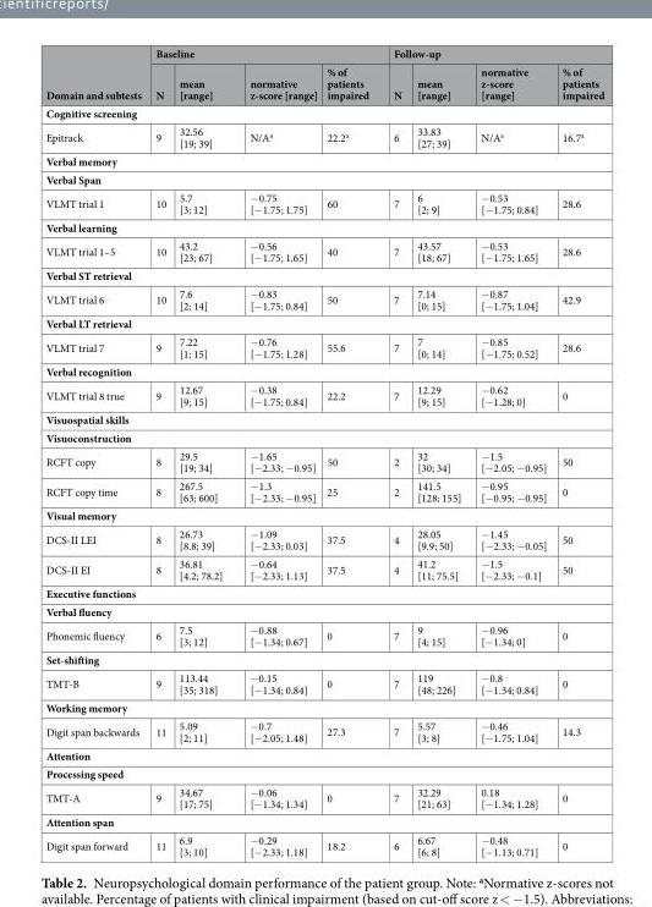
<table><thead><tr><td rowspan="2">Domain and subtests</td><td colspan="4">Baseline</td><td colspan="4">Follow-up</td></tr><tr><td>N</td><td>mean [range]</td><td>normative z-score [range]</td><td>% of patients impaired</td><td>N</td><td>mean [range]</td><td>normative z-score [range]</td><td>% of patients impaired</td></tr></thead><tbody><tr><td colspan="9">Cognitive screening</td></tr><tr><td>Epitrack</td><td>9</td><td>32.56 [19; 39]</td><td>N/A<sup>a</sup></td><td>22.2<sup>a</sup></td><td>6</td><td>33.83 [27; 39]</td><td>N/A<sup>a</sup></td><td>16.7<sup>a</sup></td></tr><tr><td colspan="9">Verbal memory</td></tr><tr><td colspan="9">Verbal Span</td></tr><tr><td>VLMT trial 1</td><td>10</td><td>5.7 [3; 12]</td><td>−0.75 [−1.75; 1.75]</td><td>60</td><td>7</td><td>6 [2; 9]</td><td>−0.53 [−1.75; 0.84]</td><td>28.6</td></tr><tr><td colspan="9">Verbal learning</td></tr><tr><td>VLMT trial 1–5</td><td>10</td><td>43.2 [23; 67]</td><td>−0.56 [−1.75; 1.65]</td><td>40</td><td>7</td><td>43.57 [18; 67]</td><td>−0.53 [−1.75; 1.65]</td><td>28.6</td></tr><tr><td colspan="9">Verbal ST retrieval</td></tr><tr><td>VLMT trial 6</td><td>10</td><td>7.6 [2; 14]</td><td>−0.83 [−1.75; 0.84]</td><td>50</td><td>7</td><td>7.14 [0; 15]</td><td>−0.87 [−1.75; 1.04]</td><td>42.9</td></tr><tr><td colspan="9">Verbal LT retrieval</td></tr><tr><td>VLMT trial 7</td><td>9</td><td>7.22 [1; 15]</td><td>−0.76 [−1.75; 1.28]</td><td>55.6</td><td>7</td><td>7 [0; 14]</td><td>−0.85 [−1.75; 0.52]</td><td>28.6</td></tr><tr><td colspan="9">Verbal recognition</td></tr><tr><td>VLMT trial 8 true</td><td>9</td><td>12.67 [9; 15]</td><td>−0.38 [−1.75; 0.84]</td><td>22.2</td><td>7</td><td>12.29 [9; 15]</td><td>−0.62 [−1.28; 0]</td><td>0</td></tr><tr><td colspan="9">Visuospatial skills</td></tr><tr><td colspan="9">Visuoconstruction</td></tr><tr><td>RCFT copy</td><td>8</td><td>29.5 [19; 34]</td><td>−1.65 [−2.33; −0.95]</td><td>50</td><td>2</td><td>32 [30; 34]</td><td>−1.5 [−2.05; −0.95]</td><td>50</td></tr><tr><td>RCFT copy time</td><td>8</td><td>267.5 [63; 600]</td><td>−1.3 [−2.33; −0.95]</td><td>25</td><td>2</td><td>141.5 [128; 155]</td><td>−0.95 [−0.95; −0.95]</td><td>0</td></tr><tr><td colspan="9">Visual memory</td></tr><tr><td>DCS-II LEI</td><td>8</td><td>26.73 [8.8; 39]</td><td>−1.09 [−2.33; 0.03]</td><td>37.5</td><td>4</td><td>28.05 [9.9; 50]</td><td>−1.45 [−2.33; −0.05]</td><td>50</td></tr><tr><td>DCS-II EI</td><td>8</td><td>36.81 [4.2; 78.2]</td><td>−0.64 [−2.33; 1.13]</td><td>37.5</td><td>4</td><td>41.2 [11; 75.5]</td><td>−1.5 [−2.33; −0.1]</td><td>50</td></tr><tr><td colspan="9">Executive functions</td></tr><tr><td colspan="9">Verbal fluency</td></tr><tr><td>Phonemic fluency</td><td>6</td><td>7.5 [3; 12]</td><td>−0.88 [−1.34; 0.67]</td><td>0</td><td>7</td><td>9 [4; 15]</td><td>−0.96 [−1.34; 0]</td><td>0</td></tr><tr><td colspan="9">Set-shifting</td></tr><tr><td>TMT-B</td><td>9</td><td>113.44 [35; 318]</td><td>−0.15 [−1.34; 0.84]</td><td>0</td><td>7</td><td>119 [48; 226]</td><td>−0.8 [−1.34; 0.84]</td><td>0</td></tr><tr><td colspan="9">Working memory</td></tr><tr><td>Digit span backwards</td><td>11</td><td>5.09 [2; 11]</td><td>−0.7 [−2.05; 1.48]</td><td>27.3</td><td>7</td><td>5.57 [3; 8]</td><td>−0.46 [−1.75; 1.04]</td><td>14.3</td></tr><tr><td colspan="9">Attention</td></tr><tr><td colspan="9">Processing speed</td></tr><tr><td>TMT-A</td><td>9</td><td>34.67 [17; 75]</td><td>−0.06 [−1.34; 1.34]</td><td>0</td><td>7</td><td>32.29 [21; 63]</td><td>0.18 [−1.34; 1.28]</td><td>0</td></tr><tr><td colspan="9">Attention span</td></tr><tr><td>Digit span forward</td><td>11</td><td>6.9 [3; 10]</td><td>−0.29 [−2.33; 1.18]</td><td>18.2</td><td>6</td><td>6.67 [6; 8]</td><td>−0.48 [−1.13; 0.71]</td><td>0</td></tr></tbody></table>